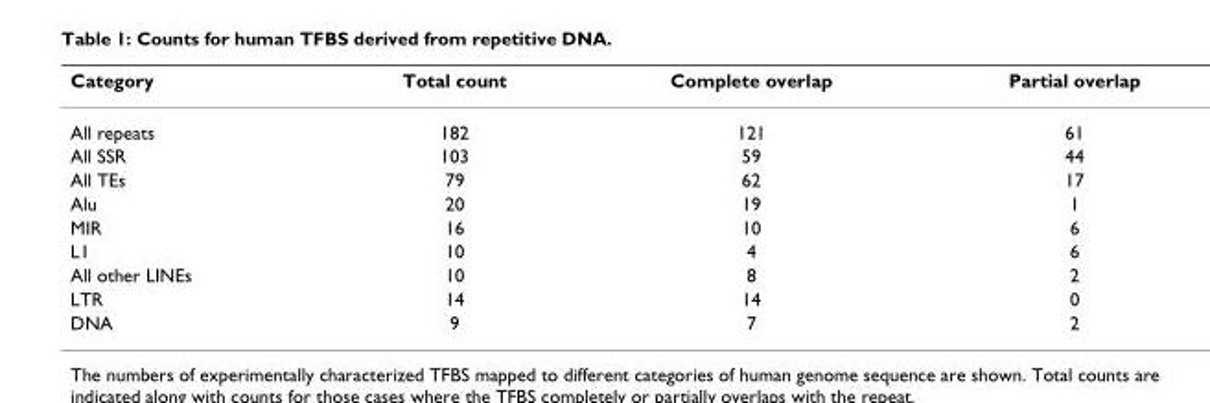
<table><thead><tr><td>Category</td><td>Total count</td><td>Complete overlap</td><td>Partial overlap</td></tr></thead><tbody><tr><td>All repeats</td><td>182</td><td>121</td><td>61</td></tr><tr><td>All SSR</td><td>103</td><td>59</td><td>44</td></tr><tr><td>All TEs</td><td>79</td><td>62</td><td>17</td></tr><tr><td>Alu</td><td>20</td><td>19</td><td>1</td></tr><tr><td>MIR</td><td>16</td><td>10</td><td>6</td></tr><tr><td>L1</td><td>10</td><td>4</td><td>6</td></tr><tr><td>All other LINEs</td><td>10</td><td>8</td><td>2</td></tr><tr><td>LTR</td><td>14</td><td>14</td><td>0</td></tr><tr><td>DNA</td><td>9</td><td>7</td><td>2</td></tr></tbody></table>